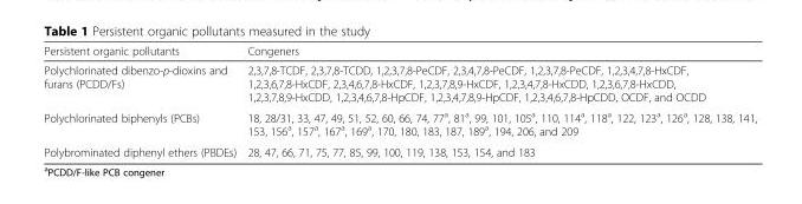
<table><thead><tr><td>Persistent organic pollutants</td><td>Congeners</td></tr></thead><tbody><tr><td>Polychlorinated dibenzo-p-dioxins and furans (PCDD/Fs)</td><td>2,3,7,8-TCDF, 2,3,7,8-TCDD, 1,2,3,7,8-PeCDF, 2,3,4,7,8-PeCDF, 1,2,3,7,8-PeCDF, 1,2,3,4,7,8-HxCDF, 1,2,3,6,7,8-HxCDF, 2,3,4,6,7,8-HxCDF, 1,2,3,7,8,9-HxCDF, 1,2,3,4,7,8-HxCDD, 1,2,3,6,7,8-HxCDD, 1,2,3,7,8,9-HxCDD, 1,2,3,4,6,7,8-HpCDF, 1,2,3,4,7,8,9-HpCDF, 1,2,3,4,6,7,8-HpCDD, OCDF, and OCDD</td></tr><tr><td>Polychlorinated biphenyls (PCBs)</td><td>18, 28/31, 33, 47, 49, 51, 52, 60, 66, 74, 77<sup>a</sup>, 81<sup>a</sup>, 99, 101, 105<sup>a</sup>, 110, 114<sup>a</sup>, 118<sup>a</sup>, 122, 123<sup>a</sup>, 126<sup>a</sup>, 128, 138, 141, 153, 156<sup>a</sup>, 157<sup>a</sup>, 167<sup>a</sup>, 169<sup>a</sup>, 170, 180, 183, 187, 189<sup>a</sup>, 194, 206, and 209</td></tr><tr><td>Polybrominated diphenyl ethers (PBDEs)</td><td>28, 47, 66, 71, 75, 77, 85, 99, 100, 119, 138, 153, 154, and 183</td></tr></tbody></table>